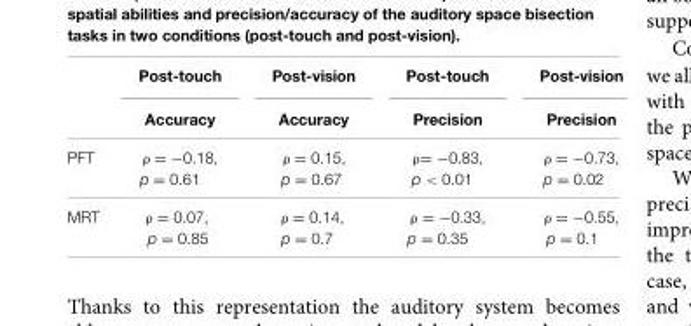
<table><thead><tr><td rowspan="2"></td><td rowspan="2">Post-touch Accuracy</td><td rowspan="2">Post-vision Accuracy</td><td rowspan="2">Post-touch Precision</td><td rowspan="2">Post-vision Precision</td></tr><tr></tr></thead><tbody><tr><td>PFT</td><td>ρ = −0.18, p = 0.61</td><td>ρ = 0.15, p = 0.67</td><td>ρ= −0.83, p &lt; 0.01</td><td>ρ = −0.73, p = 0.02</td></tr><tr><td>MRT</td><td>ρ = 0.07, p = 0.85</td><td>ρ = 0.14, p = 0.7</td><td>ρ = −0.33, p = 0.35</td><td>ρ = −0.55, p = 0.1</td></tr></tbody></table>